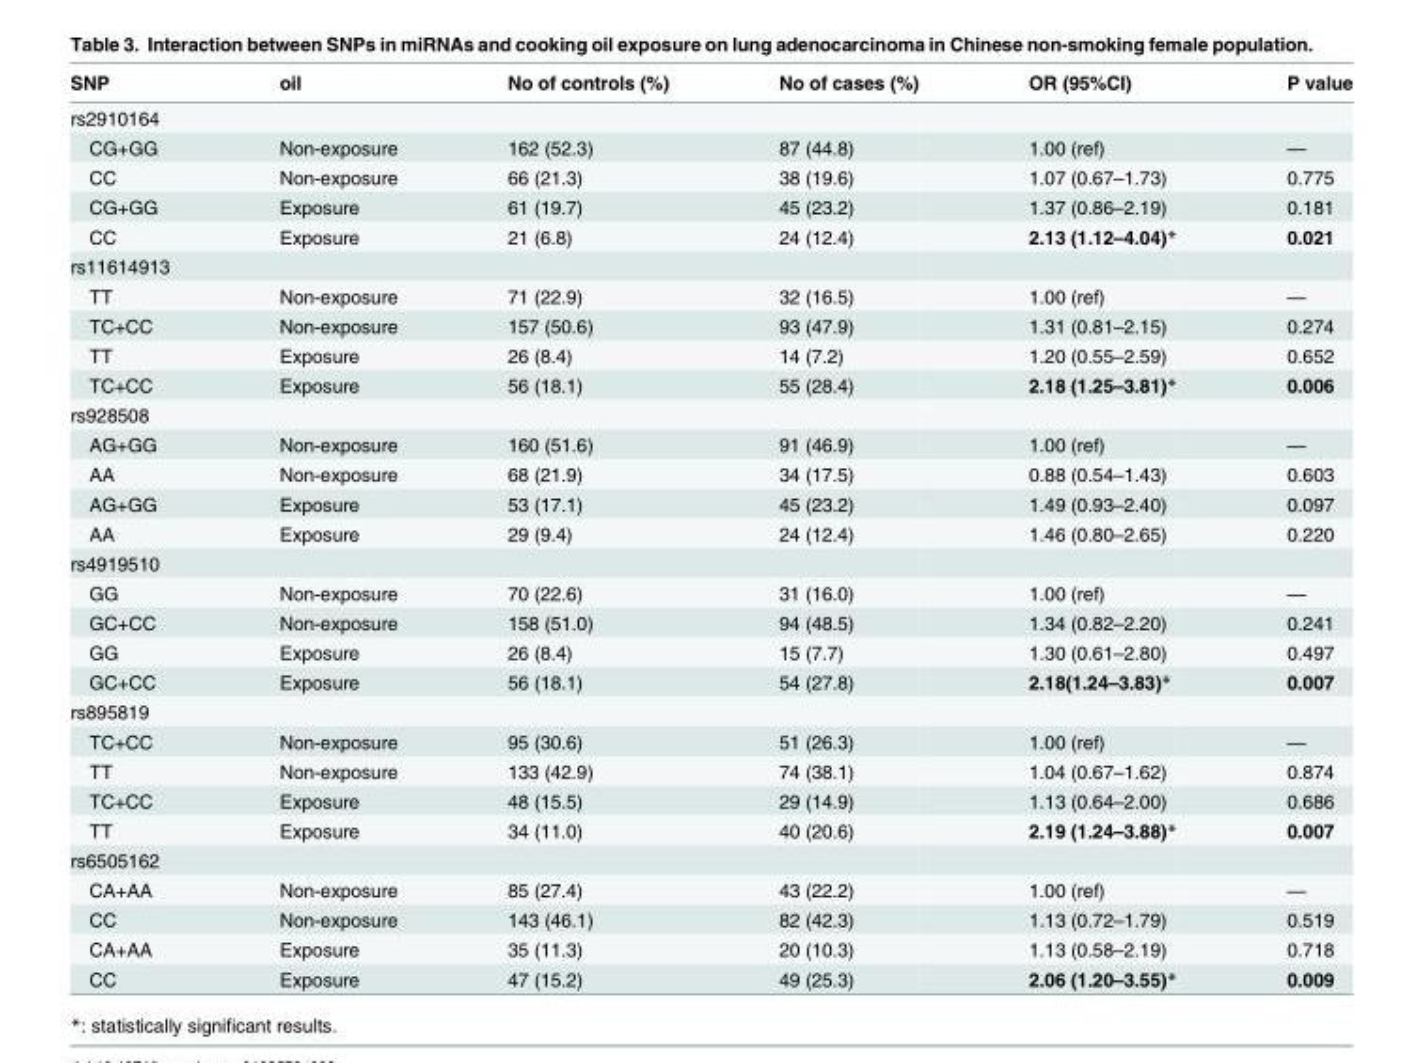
<table><thead><tr><td>SNP</td><td>oil</td><td>No of controls (%)</td><td>No of cases (%)</td><td>OR (95%CI)</td><td>P value</td></tr></thead><tbody><tr><td colspan="6">rs2910164</td></tr><tr><td>CG+GG</td><td>Non-exposure</td><td>162 (52.3)</td><td>87 (44.8)</td><td>1.00 (ref)</td><td>—</td></tr><tr><td>CC</td><td>Non-exposure</td><td>66 (21.3)</td><td>38 (19.6)</td><td>1.07 (0.67–1.73)</td><td>0.775</td></tr><tr><td>CG+GG</td><td>Exposure</td><td>61 (19.7)</td><td>45 (23.2)</td><td>1.37 (0.86–2.19)</td><td>0.181</td></tr><tr><td>CC</td><td>Exposure</td><td>21 (6.8)</td><td>24 (12.4)</td><td>2.13 (1.12–4.04)*</td><td>0.021</td></tr><tr><td colspan="6">rs11614913</td></tr><tr><td>TT</td><td>Non-exposure</td><td>71 (22.9)</td><td>32 (16.5)</td><td>1.00 (ref)</td><td>—</td></tr><tr><td>TC+CC</td><td>Non-exposure</td><td>157 (50.6)</td><td>93 (47.9)</td><td>1.31 (0.81–2.15)</td><td>0.274</td></tr><tr><td>TT</td><td>Exposure</td><td>26 (8.4)</td><td>14 (7.2)</td><td>1.20 (0.55–2.59)</td><td>0.652</td></tr><tr><td>TC+CC</td><td>Exposure</td><td>56 (18.1)</td><td>55 (28.4)</td><td>2.18 (1.25–3.81)*</td><td>0.006</td></tr><tr><td colspan="6">rs928508</td></tr><tr><td>AG+GG</td><td>Non-exposure</td><td>160 (51.6)</td><td>91 (46.9)</td><td>1.00 (ref)</td><td>—</td></tr><tr><td>AA</td><td>Non-exposure</td><td>68 (21.9)</td><td>34 (17.5)</td><td>0.88 (0.54–1.43)</td><td>0.603</td></tr><tr><td>AG+GG</td><td>Exposure</td><td>53 (17.1)</td><td>45 (23.2)</td><td>1.49 (0.93–2.40)</td><td>0.097</td></tr><tr><td>AA</td><td>Exposure</td><td>29 (9.4)</td><td>24 (12.4)</td><td>1.46 (0.80–2.65)</td><td>0.220</td></tr><tr><td colspan="6">rs4919510</td></tr><tr><td>GG</td><td>Non-exposure</td><td>70 (22.6)</td><td>31 (16.0)</td><td>1.00 (ref)</td><td>—</td></tr><tr><td>GC+CC</td><td>Non-exposure</td><td>158 (51.0)</td><td>94 (48.5)</td><td>1.34 (0.82–2.20)</td><td>0.241</td></tr><tr><td>GG</td><td>Exposure</td><td>26 (8.4)</td><td>15 (7.7)</td><td>1.30 (0.61–2.80)</td><td>0.497</td></tr><tr><td>GC+CC</td><td>Exposure</td><td>56 (18.1)</td><td>54 (27.8)</td><td>2.18(1.24–3.83)*</td><td>0.007</td></tr><tr><td colspan="6">rs895819</td></tr><tr><td>TC+CC</td><td>Non-exposure</td><td>95 (30.6)</td><td>51 (26.3)</td><td>1.00 (ref)</td><td>—</td></tr><tr><td>TT</td><td>Non-exposure</td><td>133 (42.9)</td><td>74 (38.1)</td><td>1.04 (0.67–1.62)</td><td>0.874</td></tr><tr><td>TC+CC</td><td>Exposure</td><td>48 (15.5)</td><td>29 (14.9)</td><td>1.13 (0.64–2.00)</td><td>0.686</td></tr><tr><td>TT</td><td>Exposure</td><td>34 (11.0)</td><td>40 (20.6)</td><td>2.19 (1.24–3.88)*</td><td>0.007</td></tr><tr><td colspan="6">rs6505162</td></tr><tr><td>CA+AA</td><td>Non-exposure</td><td>85 (27.4)</td><td>43 (22.2)</td><td>1.00 (ref)</td><td>—</td></tr><tr><td>CC</td><td>Non-exposure</td><td>143 (46.1)</td><td>82 (42.3)</td><td>1.13 (0.72–1.79)</td><td>0.519</td></tr><tr><td>CA+AA</td><td>Exposure</td><td>35 (11.3)</td><td>20 (10.3)</td><td>1.13 (0.58–2.19)</td><td>0.718</td></tr><tr><td>CC</td><td>Exposure</td><td>47 (15.2)</td><td>49 (25.3)</td><td>2.06 (1.20–3.55)*</td><td>0.009</td></tr></tbody></table>